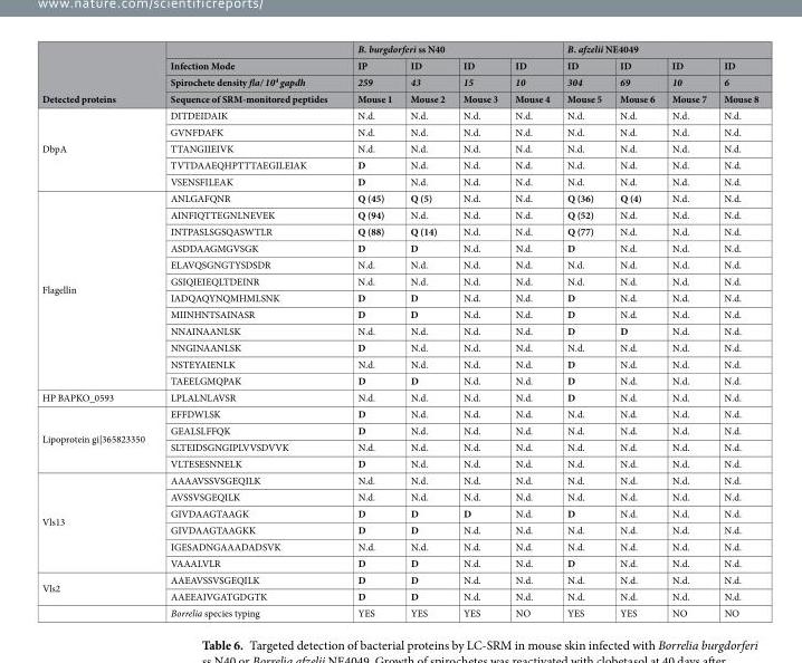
<table><thead><tr><td rowspan="4">Detected proteins</td><td rowspan="4">Infection Mode Spirochete density fla/ 10<sup>4</sup> gapdh Sequence of SRM-monitored peptides</td><td colspan="4">B. burgdorferi ss N40</td><td colspan="4">B. afzelii NE4049</td></tr><tr><td rowspan="3">IP 259 Mouse 1</td><td rowspan="3">ID 43 Mouse 2</td><td rowspan="3">ID 15 Mouse 3</td><td rowspan="3">ID 10 Mouse 4</td><td rowspan="3">ID 304 Mouse 5</td><td rowspan="3">ID 69 Mouse 6</td><td rowspan="3">ID 10 Mouse 7</td><td rowspan="3">ID 6 Mouse 8</td></tr><tr></tr><tr></tr></thead><tbody><tr><td rowspan="5">DbpA</td><td>DITDEIDAIK</td><td>N.d.</td><td>N.d.</td><td>N.d.</td><td>N.d.</td><td>N.d.</td><td>N.d.</td><td>N.d.</td><td>N.d.</td></tr><tr><td>GVNFDAFK</td><td>N.d.</td><td>N.d.</td><td>N.d.</td><td>N.d.</td><td>N.d.</td><td>N.d.</td><td>N.d.</td><td>N.d.</td></tr><tr><td>TTANGIIEIVK</td><td>N.d.</td><td>N.d.</td><td>N.d.</td><td>N.d.</td><td>N.d.</td><td>N.d.</td><td>N.d.</td><td>N.d.</td></tr><tr><td>TVTDAAEQHPTTTAEGILEIAK</td><td>D</td><td>N.d.</td><td>N.d.</td><td>N.d.</td><td>N.d.</td><td>N.d.</td><td>N.d.</td><td>N.d.</td></tr><tr><td>VSENSFILEAK</td><td>D</td><td>N.d.</td><td>N.d.</td><td>N.d.</td><td>N.d.</td><td>N.d.</td><td>N.d.</td><td>N.d.</td></tr><tr><td rowspan="12">Flagellin</td><td>ANLGAFQNR</td><td>Q (45)</td><td>Q (5)</td><td>N.d.</td><td>N.d.</td><td>Q (36)</td><td>Q (4)</td><td>N.d.</td><td>N.d.</td></tr><tr><td>AINFIQTTEGNLNEVEK</td><td>Q (94)</td><td>N.d.</td><td>N.d.</td><td>N.d.</td><td>Q (52)</td><td>N.d.</td><td>N.d.</td><td>N.d.</td></tr><tr><td>INTPASLSGSQASWTLR</td><td>Q (88)</td><td>Q (14)</td><td>N.d.</td><td>N.d.</td><td>Q (77)</td><td>N.d.</td><td>N.d.</td><td>N.d.</td></tr><tr><td>ASDDAAGMGVSGK</td><td>D</td><td>D</td><td>N.d.</td><td>N.d.</td><td>D</td><td>N.d.</td><td>N.d.</td><td>N.d.</td></tr><tr><td>ELAVQSGNGTYSDSDR</td><td>N.d.</td><td>N.d.</td><td>N.d.</td><td>N.d.</td><td>N.d.</td><td>N.d.</td><td>N.d.</td><td>N.d.</td></tr><tr><td>GSIQIEIEQLTDEINR</td><td>N.d.</td><td>N.d.</td><td>N.d.</td><td>N.d.</td><td>N.d.</td><td>N.d.</td><td>N.d.</td><td>N.d.</td></tr><tr><td>IADQAQYNQMHMLSNK</td><td>D</td><td>D</td><td>N.d.</td><td>N.d.</td><td>D</td><td>N.d.</td><td>N.d.</td><td>N.d.</td></tr><tr><td>MIINHNTSAINASR</td><td>D</td><td>D</td><td>N.d.</td><td>N.d.</td><td>D</td><td>N.d.</td><td>N.d.</td><td>N.d.</td></tr><tr><td>NNAINAANLSK</td><td>N.d.</td><td>N.d.</td><td>N.d.</td><td>N.d.</td><td>D</td><td>D</td><td>N.d.</td><td>N.d.</td></tr><tr><td>NNGINAANLSK</td><td>D</td><td>N.d.</td><td>N.d.</td><td>N.d.</td><td>N.d.</td><td>N.d.</td><td>N.d.</td><td>N.d.</td></tr><tr><td>NSTEYAIENLK</td><td>N.d.</td><td>N.d.</td><td>N.d.</td><td>N.d.</td><td>D</td><td>N.d.</td><td>N.d.</td><td>N.d.</td></tr><tr><td>TAEELGMQPAK</td><td>D</td><td>D</td><td>N.d.</td><td>N.d.</td><td>D</td><td>N.d.</td><td>N.d.</td><td>N.d.</td></tr><tr><td>HP BAPKO_0593</td><td>LPLALNLAVSR</td><td>N.d.</td><td>N.d.</td><td>N.d.</td><td>N.d.</td><td>D</td><td>N.d.</td><td>N.d.</td><td>N.d.</td></tr><tr><td rowspan="4">Lipoprotein gi|365823350</td><td>EFFDWLSK</td><td>D</td><td>N.d.</td><td>N.d.</td><td>N.d.</td><td>N.d.</td><td>N.d.</td><td>N.d.</td><td>N.d.</td></tr><tr><td>GEALSLFFQK</td><td>D</td><td>N.d.</td><td>N.d.</td><td>N.d.</td><td>N.d.</td><td>N.d.</td><td>N.d.</td><td>N.d.</td></tr><tr><td>SLTEIDSGNGIPLVVSDVVK</td><td>N.d.</td><td>N.d.</td><td>N.d.</td><td>N.d.</td><td>N.d.</td><td>N.d.</td><td>N.d.</td><td>N.d.</td></tr><tr><td>VLTESESNNELK</td><td>D</td><td>N.d.</td><td>N.d.</td><td>N.d.</td><td>N.d.</td><td>N.d.</td><td>N.d.</td><td>N.d.</td></tr><tr><td rowspan="6">Vls13</td><td>AAAAVSSVSGEQILK</td><td>N.d.</td><td>N.d.</td><td>N.d.</td><td>N.d.</td><td>N.d.</td><td>N.d.</td><td>N.d.</td><td>N.d.</td></tr><tr><td>AVSSVSGEQILK</td><td>N.d.</td><td>N.d.</td><td>N.d.</td><td>N.d.</td><td>N.d.</td><td>N.d.</td><td>N.d.</td><td>N.d.</td></tr><tr><td>GIVDAAGTAAGK</td><td>D</td><td>D</td><td>D</td><td>N.d.</td><td>D</td><td>N.d.</td><td>N.d.</td><td>N.d.</td></tr><tr><td>GIVDAAGTAAGKK</td><td>D</td><td>D</td><td>N.d.</td><td>N.d.</td><td>N.d.</td><td>N.d.</td><td>N.d.</td><td>N.d.</td></tr><tr><td>IGESADNGAAADADSVK</td><td>N.d.</td><td>N.d.</td><td>N.d.</td><td>N.d.</td><td>N.d.</td><td>N.d.</td><td>N.d.</td><td>N.d.</td></tr><tr><td>VAAALVLR</td><td>D</td><td>D</td><td>N.d.</td><td>N.d.</td><td>D</td><td>N.d.</td><td>N.d.</td><td>N.d.</td></tr><tr><td rowspan="3">Vls2</td><td>AAEAVSSVSGEQILK</td><td>D</td><td>D</td><td>N.d.</td><td>N.d.</td><td>N.d.</td><td>N.d.</td><td>N.d.</td><td>N.d.</td></tr><tr><td>AAEEAIVGATGDGTK</td><td>D</td><td>D</td><td>N.d.</td><td>N.d.</td><td>N.d.</td><td>N.d.</td><td>N.d.</td><td>N.d.</td></tr><tr><td>Borrelia species typing</td><td>YES</td><td>YES</td><td>YES</td><td>NO</td><td>YES</td><td>YES</td><td>NO</td><td>NO</td></tr></tbody></table>